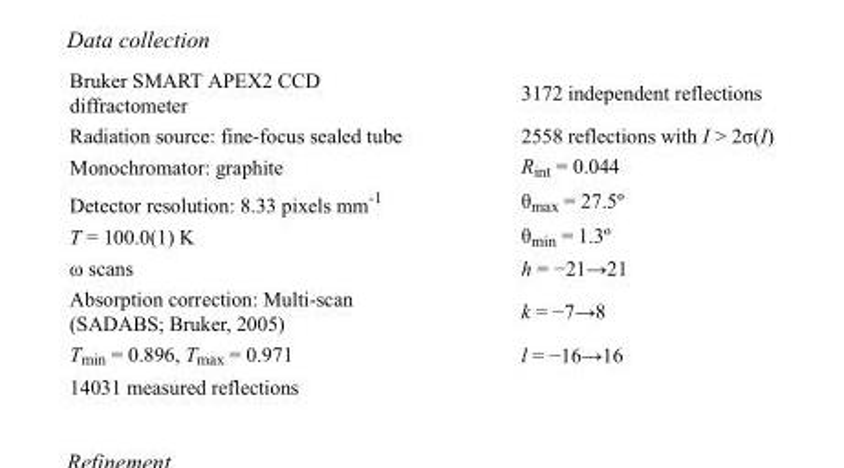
<table><tbody><tr><td>Bruker SMART APEX2 CCD diffractometer</td><td>3172 independent reflections</td></tr><tr><td>Radiation source: fine-focus sealed tube</td><td>2558 reflections with I &gt; 2σ(I)</td></tr><tr><td>Monochromator: graphite</td><td>R<sub>int</sub> = 0.044</td></tr><tr><td>Detector resolution: 8.33 pixels mm<sup>-1</sup></td><td>θ<sub>max</sub> = 27.5º</td></tr><tr><td>T = 100.0(1) K</td><td>θ<sub>min</sub> = 1.3º</td></tr><tr><td>ω scans</td><td>h = −21→21</td></tr><tr><td>Absorption correction: Multi-scan (SADABS; Bruker, 2005)</td><td>k = −7→8</td></tr><tr><td>T<sub>min</sub> = 0.896, T<sub>max</sub> = 0.971</td><td>l = −16→16</td></tr><tr><td>14031 measured reflections</td><td></td></tr></tbody></table>